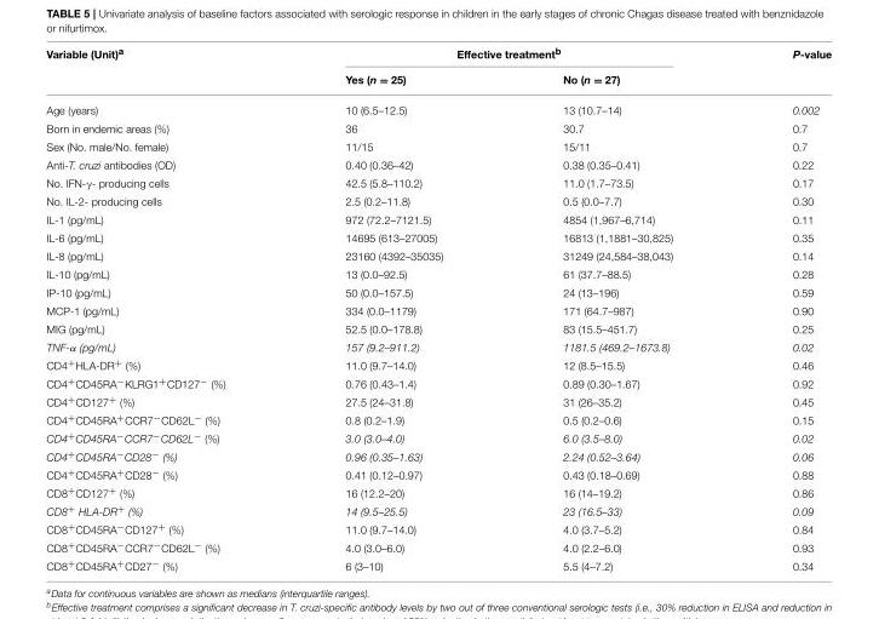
<table><thead><tr><td rowspan="2">Variable (Unit)<sup>a</sup></td><td colspan="2">Effective treatment<sup>b</sup></td><td rowspan="2">P-value</td></tr><tr><td>Yes (n = 25)</td><td>No (n = 27)</td></tr></thead><tbody><tr><td>Age (years)</td><td>10 (6.5–12.5)</td><td>13 (10.7–14)</td><td>0.002</td></tr><tr><td>Born in endemic areas (%)</td><td>36</td><td>30.7</td><td>0.7</td></tr><tr><td>Sex (No. male/No. female)</td><td>11/15</td><td>15/11</td><td>0.7</td></tr><tr><td>Anti-T. cruzi antibodies (OD)</td><td>0.40 (0.36–42)</td><td>0.38 (0.35–0.41)</td><td>0.22</td></tr><tr><td>No. IFN-γ- producing cells</td><td>42.5 (5.8–110.2)</td><td>11.0 (1.7–73.5)</td><td>0.17</td></tr><tr><td>No. IL-2- producing cells</td><td>2.5 (0.2–11.8)</td><td>0.5 (0.0–7.7)</td><td>0.30</td></tr><tr><td>IL-1 (pg/mL)</td><td>972 (72.2–7121.5)</td><td>4854 (1,967–6,714)</td><td>0.11</td></tr><tr><td>IL-6 (pg/mL)</td><td>14695 (613–27005)</td><td>16813 (1,1881–30,825)</td><td>0.35</td></tr><tr><td>IL-8 (pg/mL)</td><td>23160 (4392–35035)</td><td>31249 (24,584–38,043)</td><td>0.14</td></tr><tr><td>IL-10 (pg/mL)</td><td>13 (0.0–92.5)</td><td>61 (37.7–88.5)</td><td>0.28</td></tr><tr><td>IP-10 (pg/mL)</td><td>50 (0.0–157.5)</td><td>24 (13–196)</td><td>0.59</td></tr><tr><td>MCP-1 (pg/mL)</td><td>334 (0.0–1179)</td><td>171 (64.7–987)</td><td>0.90</td></tr><tr><td>MIG (pg/mL)</td><td>52.5 (0.0–178.8)</td><td>83 (15.5–451.7)</td><td>0.25</td></tr><tr><td>TNF-α (pg/mL)</td><td>157 (9.2–911.2)</td><td>1181.5 (469.2–1673.8)</td><td>0.02</td></tr><tr><td>CD4<sup>+</sup>HLA-DR<sup>+</sup> (%)</td><td>11.0 (9.7–14.0)</td><td>12 (8.5–15.5)</td><td>0.46</td></tr><tr><td>CD4<sup>+</sup>CD45RA<sup>−</sup>KLRG1<sup>+</sup>CD127<sup>−</sup> (%)</td><td>0.76 (0.43–1.4)</td><td>0.89 (0.30–1.67)</td><td>0.92</td></tr><tr><td>CD4<sup>+</sup>CD127<sup>+</sup> (%)</td><td>27.5 (24–31.8)</td><td>31 (26–35.2)</td><td>0.45</td></tr><tr><td>CD4<sup>+</sup>CD45RA<sup>+</sup>CCR7<sup>−</sup>CD62L<sup>−</sup> (%)</td><td>0.8 (0.2–1.9)</td><td>0.5 (0.2–0.6)</td><td>0.15</td></tr><tr><td>CD4<sup>+</sup>CD45RA<sup>−</sup>CCR7<sup>−</sup>CD62L<sup>−</sup> (%)</td><td>3.0 (3.0–4.0)</td><td>6.0 (3.5–8.0)</td><td>0.02</td></tr><tr><td>CD4<sup>+</sup>CD45RA<sup>−</sup>CD28<sup>−</sup> (%)</td><td>0.96 (0.35–1.63)</td><td>2.24 (0.52–3.64)</td><td>0.06</td></tr><tr><td>CD4<sup>+</sup>CD45RA<sup>+</sup>CD28<sup>−</sup> (%)</td><td>0.41 (0.12–0.97)</td><td>0.43 (0.18–0.69)</td><td>0.88</td></tr><tr><td>CD8<sup>+</sup>CD127<sup>+</sup> (%)</td><td>16 (12.2–20)</td><td>16 (14–19.2)</td><td>0.86</td></tr><tr><td>CD8<sup>+</sup> HLA-DR<sup>+</sup> (%)</td><td>14 (9.5–25.5)</td><td>23 (16.5–33)</td><td>0.09</td></tr><tr><td>CD8<sup>+</sup>CD45RA<sup>−</sup>CD127<sup>+</sup> (%)</td><td>11.0 (9.7–14.0)</td><td>4.0 (3.7–5.2)</td><td>0.84</td></tr><tr><td>CD8<sup>+</sup>CD45RA<sup>−</sup>CCR7<sup>−</sup>CD62L<sup>−</sup> (%)</td><td>4.0 (3.0–6.0)</td><td>4.0 (2.2–6.0)</td><td>0.93</td></tr><tr><td>CD8<sup>+</sup>CD45RA<sup>+</sup>CD27<sup>−</sup> (%)</td><td>6 (3–10)</td><td>5.5 (4–7.2)</td><td>0.34</td></tr></tbody></table>